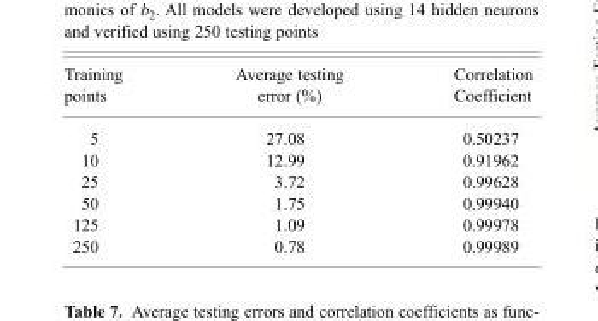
<table><thead><tr><td>Training points</td><td>Average testing error (%)</td><td>Correlation Coefficient</td></tr></thead><tbody><tr><td>5</td><td>27.08</td><td>0.50237</td></tr><tr><td>10</td><td>12.99</td><td>0.91962</td></tr><tr><td>25</td><td>3.72</td><td>0.99628</td></tr><tr><td>50</td><td>1.75</td><td>0.99940</td></tr><tr><td>125</td><td>1.09</td><td>0.99978</td></tr><tr><td>250</td><td>0.78</td><td>0.99989</td></tr></tbody></table>